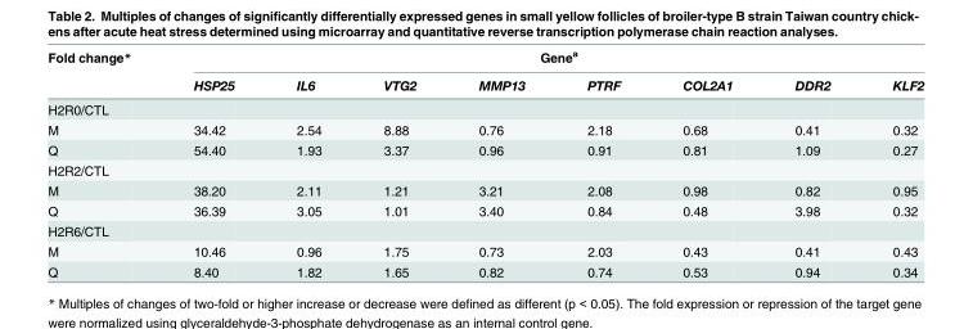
<table><thead><tr><td rowspan="2">Fold change*</td><td colspan="8">Gene<sup>a</sup></td></tr><tr><td>HSP25</td><td>IL6</td><td>VTG2</td><td>MMP13</td><td>PTRF</td><td>COL2A1</td><td>DDR2</td><td>KLF2</td></tr></thead><tbody><tr><td colspan="9">H2R0/CTL</td></tr><tr><td>M</td><td>34.42</td><td>2.54</td><td>8.88</td><td>0.76</td><td>2.18</td><td>0.68</td><td>0.41</td><td>0.32</td></tr><tr><td>Q</td><td>54.40</td><td>1.93</td><td>3.37</td><td>0.96</td><td>0.91</td><td>0.81</td><td>1.09</td><td>0.27</td></tr><tr><td colspan="9">H2R2/CTL</td></tr><tr><td>M</td><td>38.20</td><td>2.11</td><td>1.21</td><td>3.21</td><td>2.08</td><td>0.98</td><td>0.82</td><td>0.95</td></tr><tr><td>Q</td><td>36.39</td><td>3.05</td><td>1.01</td><td>3.40</td><td>0.84</td><td>0.48</td><td>3.98</td><td>0.32</td></tr><tr><td colspan="9">H2R6/CTL</td></tr><tr><td>M</td><td>10.46</td><td>0.96</td><td>1.75</td><td>0.73</td><td>2.03</td><td>0.43</td><td>0.41</td><td>0.43</td></tr><tr><td>Q</td><td>8.40</td><td>1.82</td><td>1.65</td><td>0.82</td><td>0.74</td><td>0.53</td><td>0.94</td><td>0.34</td></tr></tbody></table>